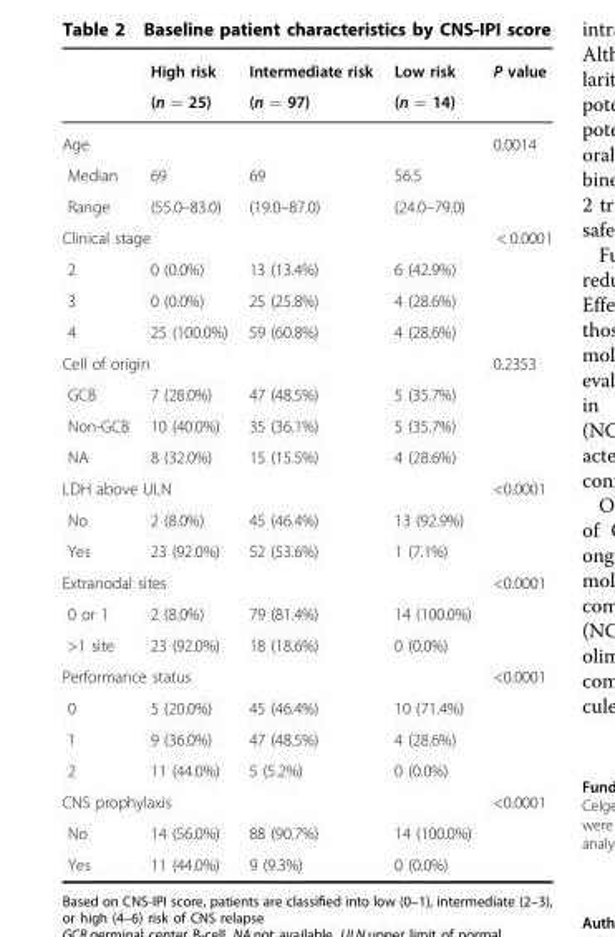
<table><thead><tr><td rowspan="2"></td><td rowspan="2">High risk (n = 25)</td><td rowspan="2">Intermediate risk (n = 97)</td><td rowspan="2">Low risk (n = 14)</td><td rowspan="2">P value</td></tr><tr></tr></thead><tbody><tr><td colspan="4">Age</td><td>0.0014</td></tr><tr><td>Median</td><td>69</td><td>69</td><td>56.5</td><td rowspan="2"></td></tr><tr><td>Range</td><td>(55.0–83.0)</td><td>(19.0–87.0)</td><td>(24.0–79.0)</td></tr><tr><td colspan="4">Clinical stage</td><td>&lt; 0.0001</td></tr><tr><td>2</td><td>0 (0.0%)</td><td>13 (13.4%)</td><td>6 (42.9%)</td><td rowspan="3"></td></tr><tr><td>3</td><td>0 (0.0%)</td><td>25 (25.8%)</td><td>4 (28.6%)</td></tr><tr><td>4</td><td>25 (100.0%)</td><td>59 (60.8%)</td><td>4 (28.6%)</td></tr><tr><td colspan="4">Cell of origin</td><td>0.2353</td></tr><tr><td>GCB</td><td>7 (28.0%)</td><td>47 (48.5%)</td><td>5 (35.7%)</td><td rowspan="3"></td></tr><tr><td>Non-GCB</td><td>10 (40.0%)</td><td>35 (36.1%)</td><td>5 (35.7%)</td></tr><tr><td>NA</td><td>8 (32.0%)</td><td>15 (15.5%)</td><td>4 (28.6%)</td></tr><tr><td colspan="4">LDH above ULN</td><td>&lt;0.0001</td></tr><tr><td>No</td><td>2 (8.0%)</td><td>45 (46.4%)</td><td>13 (92.9%)</td><td rowspan="2"></td></tr><tr><td>Yes</td><td>23 (92.0%)</td><td>52 (53.6%)</td><td>1 (7.1%)</td></tr><tr><td colspan="4">Extranodal sites</td><td>&lt;0.0001</td></tr><tr><td>0 or 1</td><td>2 (8.0%)</td><td>79 (81.4%)</td><td>14 (100.0%)</td><td rowspan="2"></td></tr><tr><td>&gt;1 site</td><td>23 (92.0%)</td><td>18 (18.6%)</td><td>0 (0.0%)</td></tr><tr><td colspan="4">Performance status</td><td>&lt;0.0001</td></tr><tr><td>0</td><td>5 (20.0%)</td><td>45 (46.4%)</td><td>10 (71.4%)</td><td rowspan="3"></td></tr><tr><td>1</td><td>9 (36.0%)</td><td>47 (48.5%)</td><td>4 (28.6%)</td></tr><tr><td>2</td><td>11 (44.0%)</td><td>5 (5.2%)</td><td>0 (0.0%)</td></tr><tr><td colspan="4">CNS prophylaxis</td><td>&lt;0.0001</td></tr><tr><td>No</td><td>14 (56.0%)</td><td>88 (90.7%)</td><td>14 (100.0%)</td><td rowspan="2"></td></tr><tr><td>Yes</td><td>11 (44.0%)</td><td>9 (9.3%)</td><td>0 (0.0%)</td></tr></tbody></table>